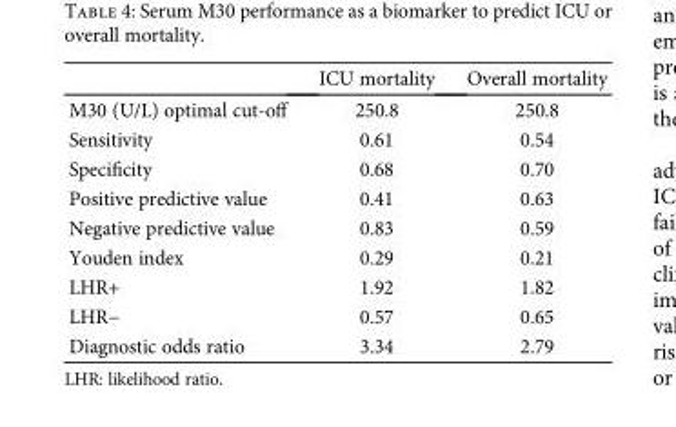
<table><thead><tr><td></td><td>ICU mortality</td><td>Overall mortality</td></tr></thead><tbody><tr><td>M30 (U/L) optimal cut-off</td><td>250.8</td><td>250.8</td></tr><tr><td>Sensitivity</td><td>0.61</td><td>0.54</td></tr><tr><td>Specificity</td><td>0.68</td><td>0.70</td></tr><tr><td>Positive predictive value</td><td>0.41</td><td>0.63</td></tr><tr><td>Negative predictive value</td><td>0.83</td><td>0.59</td></tr><tr><td>Youden index</td><td>0.29</td><td>0.21</td></tr><tr><td>LHR+</td><td>1.92</td><td>1.82</td></tr><tr><td>LHR−</td><td>0.57</td><td>0.65</td></tr><tr><td>Diagnostic odds ratio</td><td>3.34</td><td>2.79</td></tr></tbody></table>